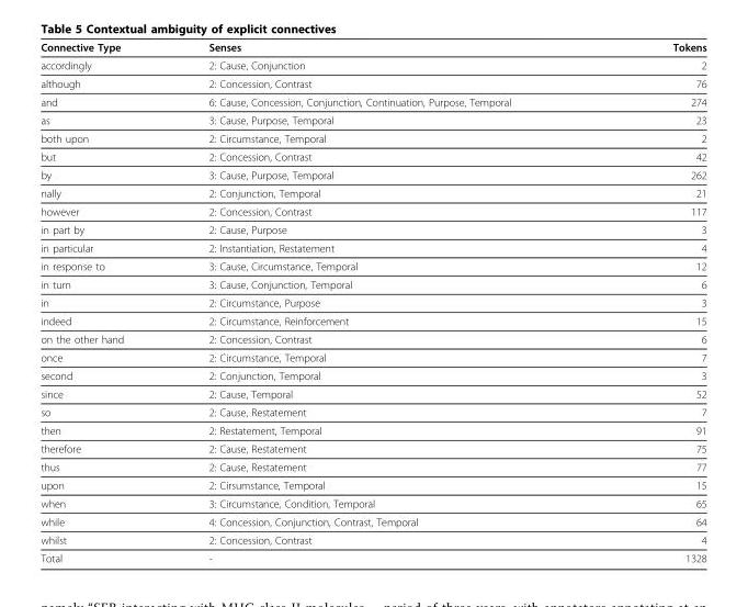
<table><thead><tr><td>Connective Type</td><td>Senses</td><td>Tokens</td></tr></thead><tbody><tr><td>accordingly</td><td>2: Cause, Conjunction</td><td>2</td></tr><tr><td>although</td><td>2: Concession, Contrast</td><td>76</td></tr><tr><td>and</td><td>6: Cause, Concession, Conjunction, Continuation, Purpose, Temporal</td><td>274</td></tr><tr><td>as</td><td>3: Cause, Purpose, Temporal</td><td>23</td></tr><tr><td>both upon</td><td>2: Circumstance, Temporal</td><td>2</td></tr><tr><td>but</td><td>2: Concession, Contrast</td><td>42</td></tr><tr><td>by</td><td>3: Cause, Purpose, Temporal</td><td>262</td></tr><tr><td>nally</td><td>2: Conjunction, Temporal</td><td>21</td></tr><tr><td>however</td><td>2: Concession, Contrast</td><td>117</td></tr><tr><td>in part by</td><td>2: Cause, Purpose</td><td>3</td></tr><tr><td>in particular</td><td>2: Instantiation, Restatement</td><td>4</td></tr><tr><td>in response to</td><td>3: Cause, Circumstance, Temporal</td><td>12</td></tr><tr><td>in turn</td><td>3: Cause, Conjunction, Temporal</td><td>6</td></tr><tr><td>in</td><td>2: Circumstance, Purpose</td><td>3</td></tr><tr><td>indeed</td><td>2: Circumstance, Reinforcement</td><td>15</td></tr><tr><td>on the other hand</td><td>2: Concession, Contrast</td><td>6</td></tr><tr><td>once</td><td>2: Circumstance, Temporal</td><td>7</td></tr><tr><td>second</td><td>2: Conjunction, Temporal</td><td>3</td></tr><tr><td>since</td><td>2: Cause, Temporal</td><td>52</td></tr><tr><td>so</td><td>2: Cause, Restatement</td><td>7</td></tr><tr><td>then</td><td>2: Restatement, Temporal</td><td>91</td></tr><tr><td>therefore</td><td>2: Cause, Restatement</td><td>75</td></tr><tr><td>thus</td><td>2: Cause, Restatement</td><td>77</td></tr><tr><td>upon</td><td>2: Cirsumstance, Temporal</td><td>15</td></tr><tr><td>when</td><td>3: Circumstance, Condition, Temporal</td><td>65</td></tr><tr><td>while</td><td>4: Concession, Conjunction, Contrast, Temporal</td><td>64</td></tr><tr><td>whilst</td><td>2: Concession, Contrast</td><td>4</td></tr><tr><td>Total</td><td>-</td><td>1328</td></tr></tbody></table>